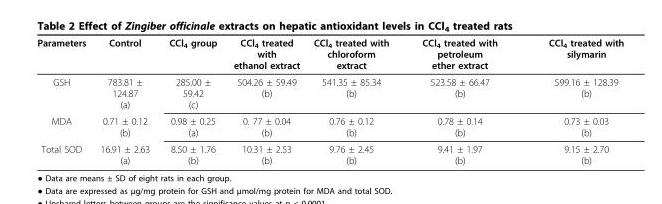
<table><thead><tr><td>Parameters</td><td>Control</td><td>CCl<sub>4</sub> group</td><td>CCl<sub>4</sub> treated with ethanol extract</td><td>CCl<sub>4</sub> treated with chloroform extract</td><td>CCl<sub>4</sub> treated with petroleum ether extract</td><td>CCl<sub>4</sub> treated with silymarin</td></tr></thead><tbody><tr><td>GSH</td><td>783.81 ± 124.87 (a)</td><td>285.00 ± 59.42 (c)</td><td>504.26 ± 59.49 (b)</td><td>541.35 ± 85.34 (b)</td><td>523.58 ± 66.47 (b)</td><td>599.16 ± 128.39 (b)</td></tr><tr><td>MDA</td><td>0.71 ± 0.12 (b)</td><td>0.98 ± 0.25 (a)</td><td>0. 77 ± 0.04 (b)</td><td>0.76 ± 0.12 (b)</td><td>0.78 ± 0.14 (b)</td><td>0.73 ± 0.03 (b)</td></tr><tr><td>Total SOD</td><td>16.91 ± 2.63 (a)</td><td>8.50 ± 1.76 (b)</td><td>10.31 ± 2.53 (b)</td><td>9.76 ± 2.45 (b)</td><td>9.41 ± 1.97 (b)</td><td>9.15 ± 2.70 (b)</td></tr></tbody></table>